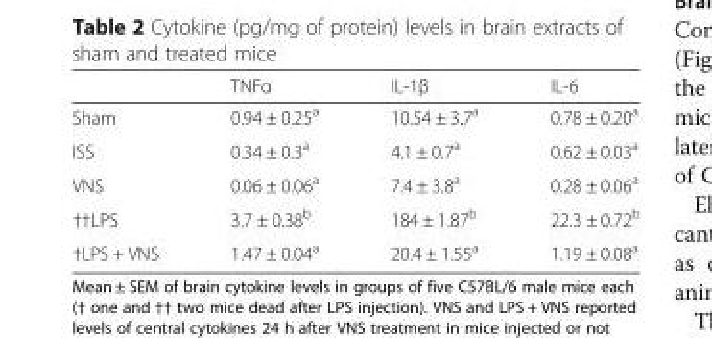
<table><thead><tr><td></td><td>TNFα</td><td>IL-1β</td><td>IL-6</td></tr></thead><tbody><tr><td>Sham</td><td>0.94 ± 0.25<sup>a</sup></td><td>10.54 ± 3.7<sup>a</sup></td><td>0.78 ± 0.20<sup>a</sup></td></tr><tr><td>ISS</td><td>0.34 ± 0.3<sup>a</sup></td><td>4.1 ± 0.7<sup>a</sup></td><td>0.62 ± 0.03<sup>a</sup></td></tr><tr><td>VNS</td><td>0.06 ± 0.06<sup>a</sup></td><td>7.4 ± 3.8<sup>a</sup></td><td>0.28 ± 0.06<sup>a</sup></td></tr><tr><td>††LPS</td><td>3.7 ± 0.38<sup>b</sup></td><td>184 ± 1.87<sup>b</sup></td><td>22.3 ± 0.72<sup>b</sup></td></tr><tr><td>†LPS + VNS</td><td>1.47 ± 0.04<sup>a</sup></td><td>20.4 ± 1.55<sup>a</sup></td><td>1.19 ± 0.08<sup>a</sup></td></tr></tbody></table>